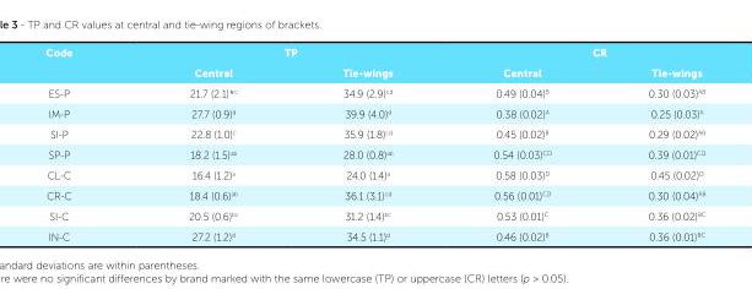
<table><thead><tr><td rowspan="2">Code</td><td colspan="2">TP</td><td colspan="2">CR</td></tr><tr><td>Central</td><td>Tie-wings</td><td>Central</td><td>Tie-wings</td></tr></thead><tbody><tr><td>ES-P</td><td>21.7 (2.1)*<sup>c</sup></td><td>34.9 (2.9)<sup>cd</sup></td><td>0.49 (0.04)<sup>B</sup></td><td>0.30 (0.03)<sup>AB</sup></td></tr><tr><td>IM-P</td><td>27.7 (0.9)<sup>d</sup></td><td>39.9 (4.0)<sup>d</sup></td><td>0.38 (0.02)<sup>A</sup></td><td>0.25 (0.03)<sup>A</sup></td></tr><tr><td>SI-P</td><td>22.8 (1.0)<sup>c</sup></td><td>35.9 (1.8)<sup>cd</sup></td><td>0.45 (0.02)<sup>B</sup></td><td>0.29 (0.02)<sup>AB</sup></td></tr><tr><td>SP-P</td><td>18.2 (1.5)<sup>ab</sup></td><td>28.0 (0.8)<sup>ab</sup></td><td>0.54 (0.03)<sup>CD</sup></td><td>0.39 (0.01)<sup>CD</sup></td></tr><tr><td>CL-C</td><td>16.4 (1.2)<sup>a</sup></td><td>24.0 (1.4)<sup>a</sup></td><td>0.58 (0.03)<sup>D</sup></td><td>0.45 (0.02)<sup>D</sup></td></tr><tr><td>CR-C</td><td>18.4 (0.6)<sup>ab</sup></td><td>36.1 (3.1)<sup>cd</sup></td><td>0.56 (0.01)<sup>CD</sup></td><td>0.30 (0.04)<sup>AB</sup></td></tr><tr><td>SI-C</td><td>20.5 (0.6)<sup>bc</sup></td><td>31.2 (1.4)<sup>bc</sup></td><td>0.53 (0.01)<sup>C</sup></td><td>0.36 (0.02)<sup>BC</sup></td></tr><tr><td>IN-C</td><td>27.2 (1.2)<sup>d</sup></td><td>34.5 (1.1)<sup>d</sup></td><td>0.46 (0.02)<sup>B</sup></td><td>0.36 (0.01)<sup>BC</sup></td></tr></tbody></table>